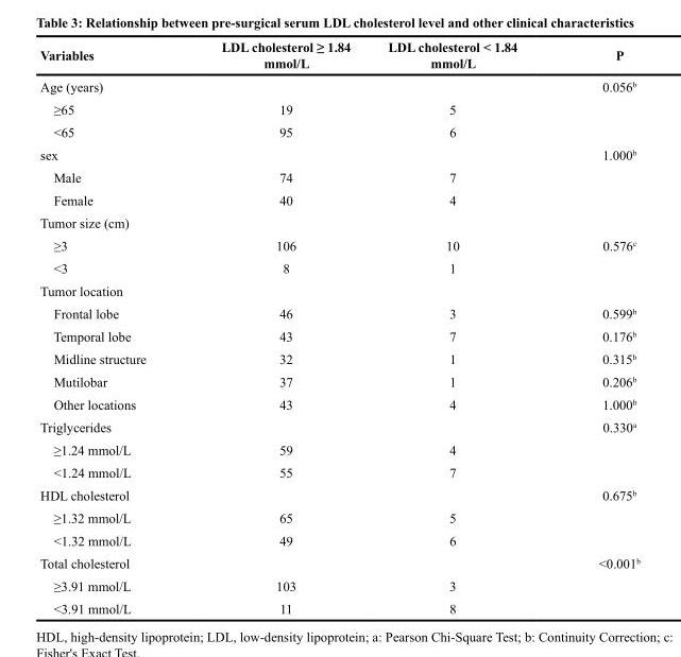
<table><thead><tr><td>Variables</td><td>LDL cholesterol ≥ 1.84 mmol/L</td><td>LDL cholesterol &lt; 1.84 mmol/L</td><td>P</td></tr></thead><tbody><tr><td>Age (years)</td><td></td><td></td><td>0.056<sup>b</sup></td></tr><tr><td>≥65</td><td>19</td><td>5</td><td></td></tr><tr><td>&lt;65</td><td>95</td><td>6</td><td></td></tr><tr><td>sex</td><td></td><td></td><td>1.000<sup>b</sup></td></tr><tr><td>Male</td><td>74</td><td>7</td><td></td></tr><tr><td>Female</td><td>40</td><td>4</td><td></td></tr><tr><td colspan="4">Tumor size (cm)</td></tr><tr><td>≥3</td><td>106</td><td>10</td><td>0.576<sup>c</sup></td></tr><tr><td>&lt;3</td><td>8</td><td>1</td><td></td></tr><tr><td colspan="4">Tumor location</td></tr><tr><td>Frontal lobe</td><td>46</td><td>3</td><td>0.599<sup>b</sup></td></tr><tr><td>Temporal lobe</td><td>43</td><td>7</td><td>0.176<sup>b</sup></td></tr><tr><td>Midline structure</td><td>32</td><td>1</td><td>0.315<sup>b</sup></td></tr><tr><td>Mutilobar</td><td>37</td><td>1</td><td>0.206<sup>b</sup></td></tr><tr><td>Other locations</td><td>43</td><td>4</td><td>1.000<sup>b</sup></td></tr><tr><td>Triglycerides</td><td></td><td></td><td>0.330<sup>a</sup></td></tr><tr><td>≥1.24 mmol/L</td><td>59</td><td>4</td><td></td></tr><tr><td>&lt;1.24 mmol/L</td><td>55</td><td>7</td><td></td></tr><tr><td>HDL cholesterol</td><td></td><td></td><td>0.675<sup>b</sup></td></tr><tr><td>≥1.32 mmol/L</td><td>65</td><td>5</td><td></td></tr><tr><td>&lt;1.32 mmol/L</td><td>49</td><td>6</td><td></td></tr><tr><td>Total cholesterol</td><td></td><td></td><td>&lt;0.001<sup>b</sup></td></tr><tr><td>≥3.91 mmol/L</td><td>103</td><td>3</td><td></td></tr><tr><td>&lt;3.91 mmol/L</td><td>11</td><td>8</td><td></td></tr></tbody></table>